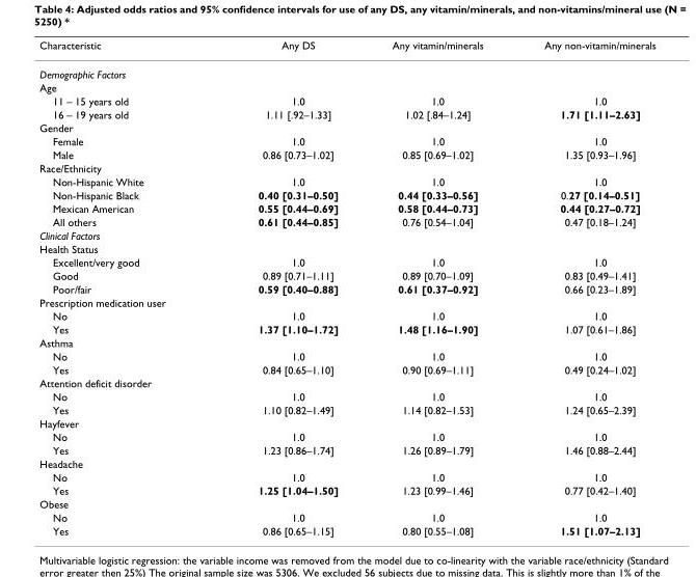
<table><thead><tr><td>Characteristic</td><td>Any DS</td><td>Any vitamin/minerals</td><td>Any non-vitamin/minerals</td></tr></thead><tbody><tr><td colspan="4">Demographic Factors</td></tr><tr><td colspan="4">Age</td></tr><tr><td>11 – 15 years old</td><td>1.0</td><td>1.0</td><td>1.0</td></tr><tr><td>16 – 19 years old</td><td>1.11 [.92–1.33]</td><td>1.02 [.84–1.24]</td><td>1.71 [1.11–2.63]</td></tr><tr><td colspan="4">Gender</td></tr><tr><td>Female</td><td>1.0</td><td>1.0</td><td>1.0</td></tr><tr><td>Male</td><td>0.86 [0.73–1.02]</td><td>0.85 [0.69–1.02]</td><td>1.35 [0.93–1.96]</td></tr><tr><td colspan="4">Race/Ethnicity</td></tr><tr><td>Non-Hispanic White</td><td>1.0</td><td>1.0</td><td>1.0</td></tr><tr><td>Non-Hispanic Black</td><td>0.40 [0.31–0.50]</td><td>0.44 [0.33–0.56]</td><td>0.27 [0.14–0.51]</td></tr><tr><td>Mexican American</td><td>0.55 [0.44–0.69]</td><td>0.58 [0.44–0.73]</td><td>0.44 [0.27–0.72]</td></tr><tr><td>All others</td><td>0.61 [0.44–0.85]</td><td>0.76 [0.54–1.04]</td><td>0.47 [0.18–1.24]</td></tr><tr><td colspan="4">Clinical Factors</td></tr><tr><td colspan="4">Health Status</td></tr><tr><td>Excellent/very good</td><td>1.0</td><td>1.0</td><td>1.0</td></tr><tr><td>Good</td><td>0.89 [0.71–1.11]</td><td>0.89 [0.70–1.09]</td><td>0.83 [0.49–1.41]</td></tr><tr><td>Poor/fair</td><td>0.59 [0.40–0.88]</td><td>0.61 [0.37–0.92]</td><td>0.66 [0.23–1.89]</td></tr><tr><td colspan="4">Prescription medication user</td></tr><tr><td>No</td><td>1.0</td><td>1.0</td><td>1.0</td></tr><tr><td>Yes</td><td>1.37 [1.10–1.72]</td><td>1.48 [1.16–1.90]</td><td>1.07 [0.61–1.86]</td></tr><tr><td colspan="4">Asthma</td></tr><tr><td>No</td><td>1.0</td><td>1.0</td><td>1.0</td></tr><tr><td>Yes</td><td>0.84 [0.65–1.10]</td><td>0.90 [0.69–1.11]</td><td>0.49 [0.24–1.02]</td></tr><tr><td colspan="4">Attention deficit disorder</td></tr><tr><td>No</td><td>1.0</td><td>1.0</td><td>1.0</td></tr><tr><td>Yes</td><td>1.10 [0.82–1.49]</td><td>1.14 [0.82–1.53]</td><td>1.24 [0.65–2.39]</td></tr><tr><td colspan="4">Hayfever</td></tr><tr><td>No</td><td>1.0</td><td>1.0</td><td>1.0</td></tr><tr><td>Yes</td><td>1.23 [0.86–1.74]</td><td>1.26 [0.89–1.79]</td><td>1.46 [0.88–2.44]</td></tr><tr><td colspan="4">Headache</td></tr><tr><td>No</td><td>1.0</td><td>1.0</td><td>1.0</td></tr><tr><td>Yes</td><td>1.25 [1.04–1.50]</td><td>1.23 [0.99–1.46]</td><td>0.77 [0.42–1.40]</td></tr><tr><td colspan="4">Obese</td></tr><tr><td>No</td><td>1.0</td><td>1.0</td><td>1.0</td></tr><tr><td>Yes</td><td>0.86 [0.65–1.15]</td><td>0.80 [0.55–1.08]</td><td>1.51 [1.07–2.13]</td></tr></tbody></table>